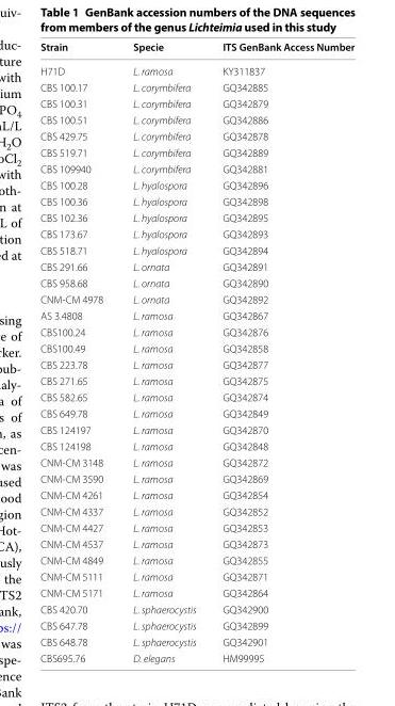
<table><thead><tr><td>Strain</td><td>Specie</td><td>ITS GenBank Access Number</td></tr></thead><tbody><tr><td>H71D</td><td>L. ramosa</td><td>KY311837</td></tr><tr><td>CBS 100.17</td><td>L. corymbifera</td><td>GQ342885</td></tr><tr><td>CBS 100.31</td><td>L. corymbifera</td><td>GQ342879</td></tr><tr><td>CBS 100.51</td><td>L. corymbifera</td><td>GQ342886</td></tr><tr><td>CBS 429.75</td><td>L. corymbifera</td><td>GQ342878</td></tr><tr><td>CBS 519.71</td><td>L. corymbifera</td><td>GQ342889</td></tr><tr><td>CBS 109940</td><td>L. corymbifera</td><td>GQ342881</td></tr><tr><td>CBS 100.28</td><td>L. hyalospora</td><td>GQ342896</td></tr><tr><td>CBS 100.36</td><td>L. hyalospora</td><td>GQ342898</td></tr><tr><td>CBS 102.36</td><td>L. hyalospora</td><td>GQ342895</td></tr><tr><td>CBS 173.67</td><td>L. hyalospora</td><td>GQ342893</td></tr><tr><td>CBS 518.71</td><td>L. hyalospora</td><td>GQ342894</td></tr><tr><td>CBS 291.66</td><td>L. ornata</td><td>GQ342891</td></tr><tr><td>CBS 958.68</td><td>L. ornata</td><td>GQ342890</td></tr><tr><td>CNM‑CM 4978</td><td>L. ornata</td><td>GQ342892</td></tr><tr><td>AS 3.4808</td><td>L. ramosa</td><td>GQ342867</td></tr><tr><td>CBS100.24</td><td>L. ramosa</td><td>GQ342876</td></tr><tr><td>CBS100.49</td><td>L. ramosa</td><td>GQ342858</td></tr><tr><td>CBS 223.78</td><td>L. ramosa</td><td>GQ342877</td></tr><tr><td>CBS 271.65</td><td>L. ramosa</td><td>GQ342875</td></tr><tr><td>CBS 582.65</td><td>L. ramosa</td><td>GQ342874</td></tr><tr><td>CBS 649.78</td><td>L. ramosa</td><td>GQ342849</td></tr><tr><td>CBS 124197</td><td>L. ramosa</td><td>GQ342870</td></tr><tr><td>CBS 124198</td><td>L. ramosa</td><td>GQ342848</td></tr><tr><td>CNM‑CM 3148</td><td>L. ramosa</td><td>GQ342872</td></tr><tr><td>CNM‑CM 3590</td><td>L. ramosa</td><td>GQ342869</td></tr><tr><td>CNM‑CM 4261</td><td>L. ramosa</td><td>GQ342854</td></tr><tr><td>CNM‑CM 4337</td><td>L. ramosa</td><td>GQ342852</td></tr><tr><td>CNM‑CM 4427</td><td>L. ramosa</td><td>GQ342853</td></tr><tr><td>CNM‑CM 4537</td><td>L. ramosa</td><td>GQ342873</td></tr><tr><td>CNM‑CM 4849</td><td>L. ramosa</td><td>GQ342855</td></tr><tr><td>CNM‑CM 5111</td><td>L. ramosa</td><td>GQ342871</td></tr><tr><td>CNM‑CM 5171</td><td>L. ramosa</td><td>GQ342864</td></tr><tr><td>CBS 420.70</td><td>L. sphaerocystis</td><td>GQ342900</td></tr><tr><td>CBS 647.78</td><td>L. sphaerocystis</td><td>GQ342899</td></tr><tr><td>CBS 648.78</td><td>L. sphaerocystis</td><td>GQ342901</td></tr><tr><td>CBS695.76</td><td>D. elegans</td><td>HM99995</td></tr></tbody></table>